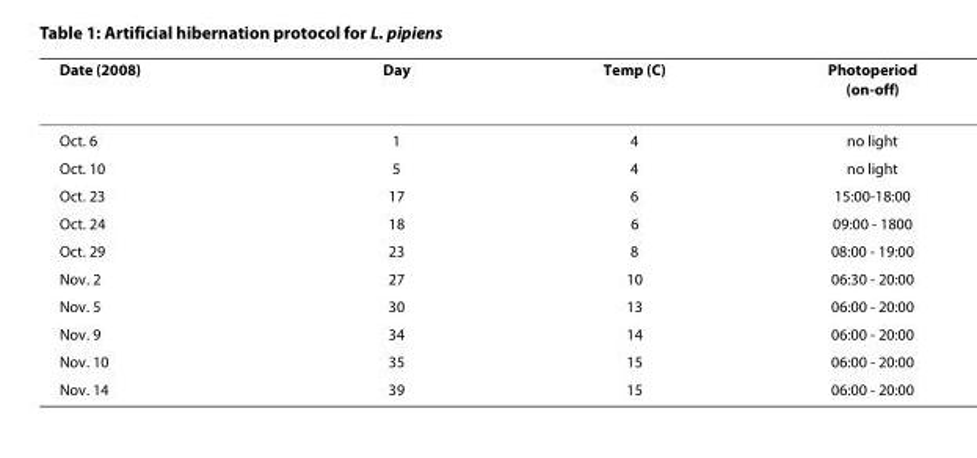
<table><thead><tr><td>Date (2008)</td><td>Day</td><td>Temp (C)</td><td>Photoperiod (on-off)</td></tr></thead><tbody><tr><td>Oct. 6</td><td>1</td><td>4</td><td>no light</td></tr><tr><td>Oct. 10</td><td>5</td><td>4</td><td>no light</td></tr><tr><td>Oct. 23</td><td>17</td><td>6</td><td>15:00-18:00</td></tr><tr><td>Oct. 24</td><td>18</td><td>6</td><td>09:00 - 1800</td></tr><tr><td>Oct. 29</td><td>23</td><td>8</td><td>08:00 - 19:00</td></tr><tr><td>Nov. 2</td><td>27</td><td>10</td><td>06:30 - 20:00</td></tr><tr><td>Nov. 5</td><td>30</td><td>13</td><td>06:00 - 20:00</td></tr><tr><td>Nov. 9</td><td>34</td><td>14</td><td>06:00 - 20:00</td></tr><tr><td>Nov. 10</td><td>35</td><td>15</td><td>06:00 - 20:00</td></tr><tr><td>Nov. 14</td><td>39</td><td>15</td><td>06:00 - 20:00</td></tr></tbody></table>